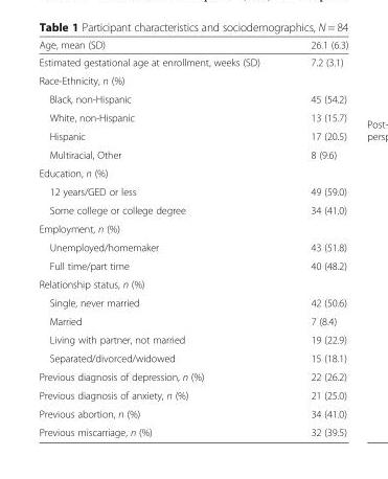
<table><thead><tr><td>Age, mean (SD)</td><td>26.1 (6.3)</td></tr></thead><tbody><tr><td>Estimated gestational age at enrollment, weeks (SD)</td><td>7.2 (3.1)</td></tr><tr><td colspan="2">Race-Ethnicity, n (%)</td></tr><tr><td>Black, non-Hispanic</td><td>45 (54.2)</td></tr><tr><td>White, non-Hispanic</td><td>13 (15.7)</td></tr><tr><td>Hispanic</td><td>17 (20.5)</td></tr><tr><td>Multiracial, Other</td><td>8 (9.6)</td></tr><tr><td colspan="2">Education, n (%)</td></tr><tr><td>12 years/GED or less</td><td>49 (59.0)</td></tr><tr><td>Some college or college degree</td><td>34 (41.0)</td></tr><tr><td colspan="2">Employment, n (%)</td></tr><tr><td>Unemployed/homemaker</td><td>43 (51.8)</td></tr><tr><td>Full time/part time</td><td>40 (48.2)</td></tr><tr><td colspan="2">Relationship status, n (%)</td></tr><tr><td>Single, never married</td><td>42 (50.6)</td></tr><tr><td>Married</td><td>7 (8.4)</td></tr><tr><td>Living with partner, not married</td><td>19 (22.9)</td></tr><tr><td>Separated/divorced/widowed</td><td>15 (18.1)</td></tr><tr><td>Previous diagnosis of depression, n (%)</td><td>22 (26.2)</td></tr><tr><td>Previous diagnosis of anxiety, n (%)</td><td>21 (25.0)</td></tr><tr><td>Previous abortion, n (%)</td><td>34 (41.0)</td></tr><tr><td>Previous miscarriage, n (%)</td><td>32 (39.5)</td></tr></tbody></table>